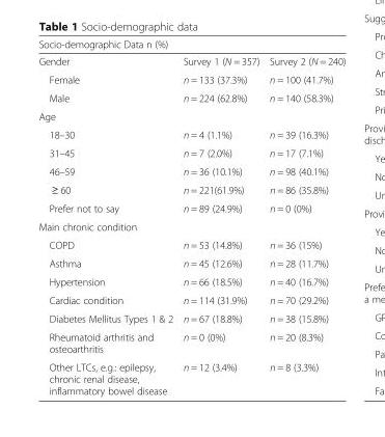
<table><thead><tr><td colspan="3">Socio-demographic Data n (%)</td></tr><tr><td>Gender</td><td>Survey 1 (N = 357)</td><td>Survey 2 (N = 240)</td></tr></thead><tbody><tr><td>Female</td><td>n = 133 (37.3%)</td><td>n = 100 (41.7%)</td></tr><tr><td>Male</td><td>n = 224 (62.8%)</td><td>n = 140 (58.3%)</td></tr><tr><td colspan="3">Age</td></tr><tr><td>18–30</td><td>n = 4 (1.1%)</td><td>n = 39 (16.3%)</td></tr><tr><td>31–45</td><td>n = 7 (2.0%)</td><td>n = 17 (7.1%)</td></tr><tr><td>46–59</td><td>n = 36 (10.1%)</td><td>n = 98 (40.1%)</td></tr><tr><td>≥ 60</td><td>n = 221(61.9%)</td><td>n = 86 (35.8%)</td></tr><tr><td>Prefer not to say</td><td>n = 89 (24.9%)</td><td>n = 0 (0%)</td></tr><tr><td colspan="3">Main chronic condition</td></tr><tr><td>COPD</td><td>n = 53 (14.8%)</td><td>n = 36 (15%)</td></tr><tr><td>Asthma</td><td>n = 45 (12.6%)</td><td>n = 28 (11.7%)</td></tr><tr><td>Hypertension</td><td>n = 66 (18.5%)</td><td>n = 40 (16.7%)</td></tr><tr><td>Cardiac condition</td><td>n = 114 (31.9%)</td><td>n = 70 (29.2%)</td></tr><tr><td>Diabetes Mellitus Types 1 &amp; 2</td><td>n = 67 (18.8%)</td><td>n = 38 (15.8%)</td></tr><tr><td>Rheumatoid arthritis and osteoarthritis</td><td>n = 0 (0%)</td><td>n = 20 (8.3%)</td></tr><tr><td>Other LTCs, e.g.: epilepsy, chronic renal disease, inflammatory bowel disease</td><td>n = 12 (3.4%)</td><td>n = 8 (3.3%)</td></tr></tbody></table>